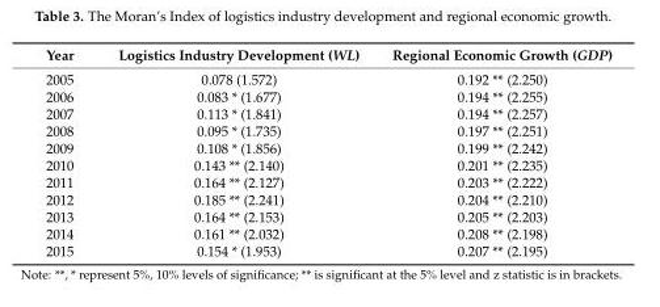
<table><thead><tr><td>Year</td><td>Logistics Industry Development (WL)</td><td>Regional Economic Growth (GDP)</td></tr></thead><tbody><tr><td>2005</td><td>0.078 (1.572)</td><td>0.192 ** (2.250)</td></tr><tr><td>2006</td><td>0.083 * (1.677)</td><td>0.194 ** (2.255)</td></tr><tr><td>2007</td><td>0.113 * (1.841)</td><td>0.194 ** (2.257)</td></tr><tr><td>2008</td><td>0.095 * (1.735)</td><td>0.197 ** (2.251)</td></tr><tr><td>2009</td><td>0.108 * (1.856)</td><td>0.199 ** (2.242)</td></tr><tr><td>2010</td><td>0.143 ** (2.140)</td><td>0.201 ** (2.235)</td></tr><tr><td>2011</td><td>0.164 ** (2.127)</td><td>0.203 ** (2.222)</td></tr><tr><td>2012</td><td>0.185 ** (2.241)</td><td>0.204 ** (2.210)</td></tr><tr><td>2013</td><td>0.164 ** (2.153)</td><td>0.205 ** (2.203)</td></tr><tr><td>2014</td><td>0.161 ** (2.032)</td><td>0.208 ** (2.198)</td></tr><tr><td>2015</td><td>0.154 * (1.953)</td><td>0.207 ** (2.195)</td></tr></tbody></table>